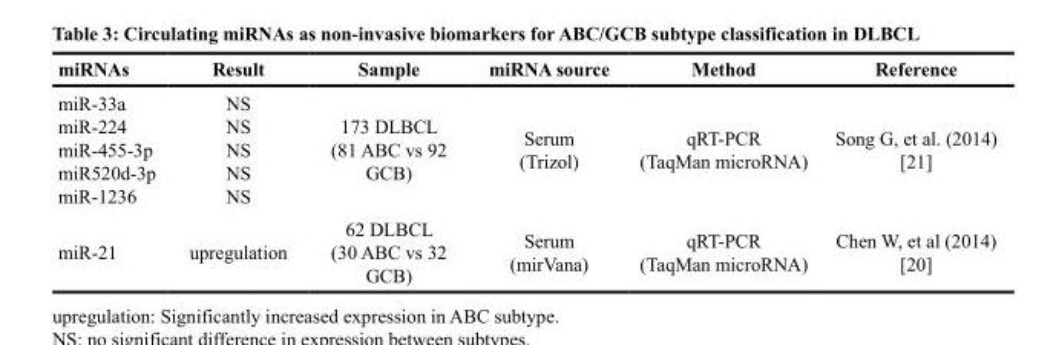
<table><thead><tr><td>miRNAs</td><td>Result</td><td>Sample</td><td>miRNA source</td><td>Method</td><td>Reference</td></tr></thead><tbody><tr><td>miR-33a miR-224 miR-455-3p miR520d-3p miR-1236</td><td>NS NS NS NS NS</td><td>173 DLBCL (81 ABC vs 92 GCB)</td><td>Serum (Trizol)</td><td>qRT-PCR (TaqMan microRNA)</td><td>Song G, et al. (2014) [21]</td></tr><tr><td>miR-21</td><td>upregulation</td><td>62 DLBCL (30 ABC vs 32 GCB)</td><td>Serum (mirVana)</td><td>qRT-PCR (TaqMan microRNA)</td><td>Chen W, et al (2014) [20]</td></tr></tbody></table>